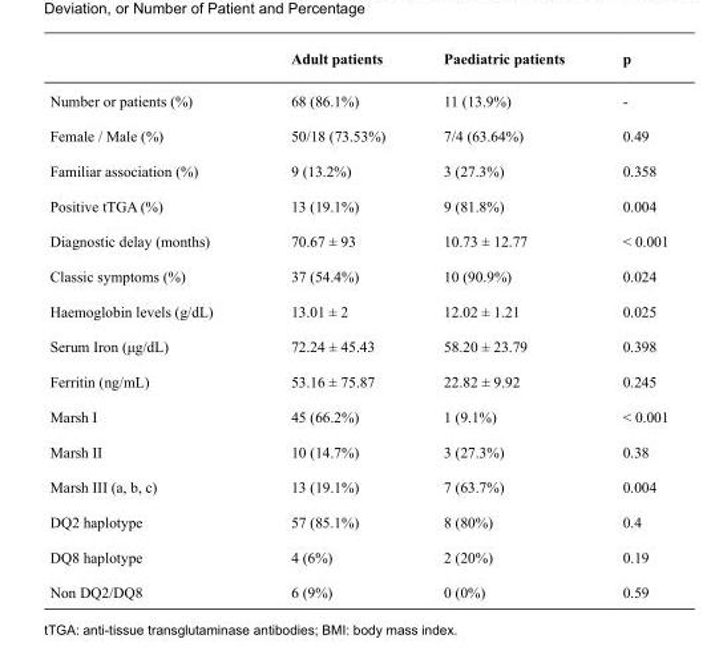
<table><thead><tr><td></td><td>Adult patients</td><td>Paediatric patients</td><td>p</td></tr></thead><tbody><tr><td>Number or patients (%)</td><td>68 (86.1%)</td><td>11 (13.9%)</td><td>-</td></tr><tr><td>Female / Male (%)</td><td>50/18 (73.53%)</td><td>7/4 (63.64%)</td><td>0.49</td></tr><tr><td>Familiar association (%)</td><td>9 (13.2%)</td><td>3 (27.3%)</td><td>0.358</td></tr><tr><td>Positive tTGA (%)</td><td>13 (19.1%)</td><td>9 (81.8%)</td><td>0.004</td></tr><tr><td>Diagnostic delay (months)</td><td>70.67 ± 93</td><td>10.73 ± 12.77</td><td>&lt; 0.001</td></tr><tr><td>Classic symptoms (%)</td><td>37 (54.4%)</td><td>10 (90.9%)</td><td>0.024</td></tr><tr><td>Haemoglobin levels (g/dL)</td><td>13.01 ± 2</td><td>12.02 ± 1.21</td><td>0.025</td></tr><tr><td>Serum Iron (μg/dL)</td><td>72.24 ± 45.43</td><td>58.20 ± 23.79</td><td>0.398</td></tr><tr><td>Ferritin (ng/mL)</td><td>53.16 ± 75.87</td><td>22.82 ± 9.92</td><td>0.245</td></tr><tr><td>Marsh I</td><td>45 (66.2%)</td><td>1 (9.1%)</td><td>&lt; 0.001</td></tr><tr><td>Marsh II</td><td>10 (14.7%)</td><td>3 (27.3%)</td><td>0.38</td></tr><tr><td>Marsh III (a, b, c)</td><td>13 (19.1%)</td><td>7 (63.7%)</td><td>0.004</td></tr><tr><td>DQ2 haplotype</td><td>57 (85.1%)</td><td>8 (80%)</td><td>0.4</td></tr><tr><td>DQ8 haplotype</td><td>4 (6%)</td><td>2 (20%)</td><td>0.19</td></tr><tr><td>Non DQ2/DQ8</td><td>6 (9%)</td><td>0 (0%)</td><td>0.59</td></tr></tbody></table>